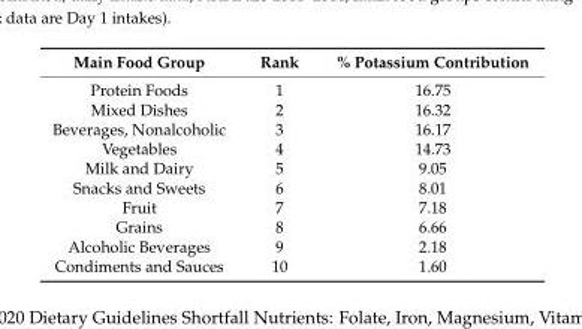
<table><thead><tr><td>Main Food Group</td><td>Rank</td><td>% Potassium Contribution</td></tr></thead><tbody><tr><td>Protein Foods</td><td>1</td><td>16.75</td></tr><tr><td>Mixed Dishes</td><td>2</td><td>16.32</td></tr><tr><td>Beverages, Nonalcoholic</td><td>3</td><td>16.17</td></tr><tr><td>Vegetables</td><td>4</td><td>14.73</td></tr><tr><td>Milk and Dairy</td><td>5</td><td>9.05</td></tr><tr><td>Snacks and Sweets</td><td>6</td><td>8.01</td></tr><tr><td>Fruit</td><td>7</td><td>7.18</td></tr><tr><td>Grains</td><td>8</td><td>6.66</td></tr><tr><td>Alcoholic Beverages</td><td>9</td><td>2.18</td></tr><tr><td>Condiments and Sauces</td><td>10</td><td>1.60</td></tr></tbody></table>